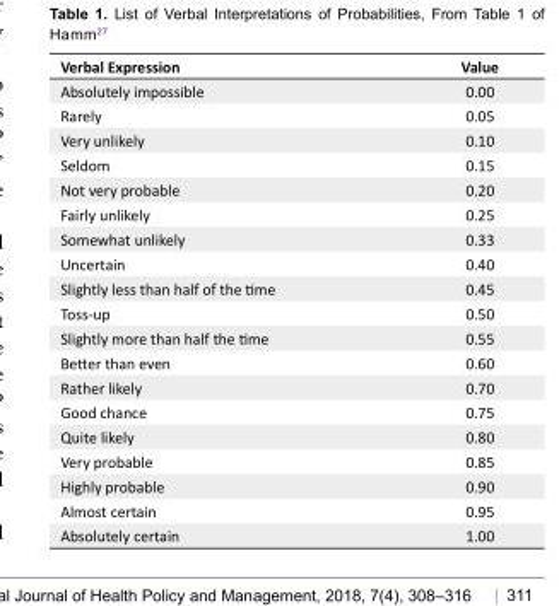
<table><tbody><tr><td>Verbal Expression</td><td>Value</td></tr><tr><td>Absolutely impossible</td><td>0.00</td></tr><tr><td>Rarely</td><td>0.05</td></tr><tr><td>Very unlikely</td><td>0.10</td></tr><tr><td>Seldom</td><td>0.15</td></tr><tr><td>Not very probable</td><td>0.20</td></tr><tr><td>Fairly unlikely</td><td>0.25</td></tr><tr><td>Somewhat unlikely</td><td>0.33</td></tr><tr><td>Uncertain</td><td>0.40</td></tr><tr><td>Slightly less than half of the time</td><td>0.45</td></tr><tr><td>Toss-up</td><td>0.50</td></tr><tr><td>Slightly more than half the time</td><td>0.55</td></tr><tr><td>Better than even</td><td>0.60</td></tr><tr><td>Rather likely</td><td>0.70</td></tr><tr><td>Good chance</td><td>0.75</td></tr><tr><td>Quite likely</td><td>0.80</td></tr><tr><td>Very probable</td><td>0.85</td></tr><tr><td>Highly probable</td><td>0.90</td></tr><tr><td>Almost certain</td><td>0.95</td></tr><tr><td>Absolutely certain</td><td>1.00</td></tr></tbody></table>